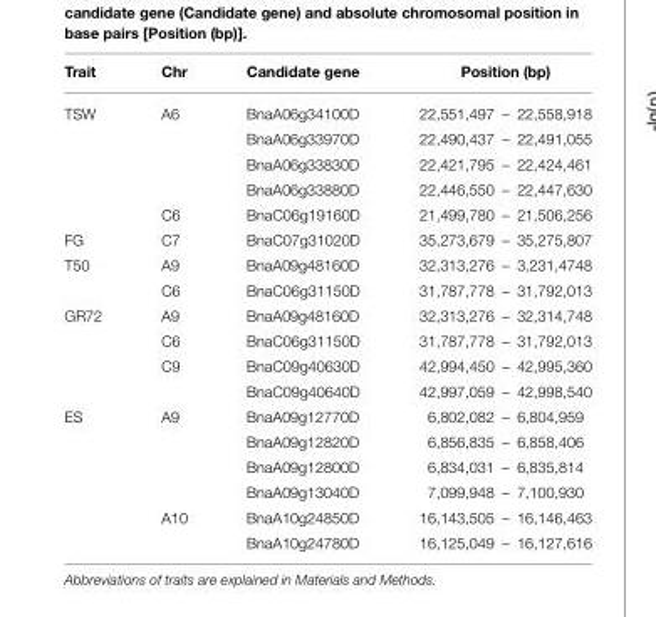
<table><thead><tr><td>Trait</td><td>Chr</td><td>Candidate gene</td><td>Position (bp)</td></tr></thead><tbody><tr><td rowspan="5">TSW</td><td>A6</td><td>BnaA06g34100D</td><td>22,551,497 – 22,558,918</td></tr><tr><td></td><td>BnaA06g33970D</td><td>22,490,437 – 22,491,055</td></tr><tr><td></td><td>BnaA06g33830D</td><td>22,421,795 – 22,424,461</td></tr><tr><td></td><td>BnaA06g33880D</td><td>22,446,550 – 22,447,630</td></tr><tr><td>C6</td><td>BnaC06g19160D</td><td>21,499,780 – 21,506,256</td></tr><tr><td>FG</td><td>C7</td><td>BnaC07g31020D</td><td>35,273,679 – 35,275,807</td></tr><tr><td rowspan="2">T50</td><td>A9</td><td>BnaA09g48160D</td><td>32,313,276 – 3,231,4748</td></tr><tr><td>C6</td><td>BnaC06g31150D</td><td>31,787,778 – 31,792,013</td></tr><tr><td rowspan="4">GR72</td><td>A9</td><td>BnaA09g48160D</td><td>32,313,276 – 32,314,748</td></tr><tr><td>C6</td><td>BnaC06g31150D</td><td>31,787,778 – 31,792,013</td></tr><tr><td>C9</td><td>BnaC09g40630D</td><td>42,994,450 – 42,995,360</td></tr><tr><td></td><td>BnaC09g40640D</td><td>42,997,059 – 42,998,540</td></tr><tr><td rowspan="6">ES</td><td>A9</td><td>BnaA09g12770D</td><td>6,802,082 – 6,804,959</td></tr><tr><td></td><td>BnaA09g12820D</td><td>6,856,835 – 6,858,406</td></tr><tr><td></td><td>BnaA09g12800D</td><td>6,834,031 – 6,835,814</td></tr><tr><td></td><td>BnaA09g13040D</td><td>7,099,948 – 7,100,930</td></tr><tr><td>A10</td><td>BnaA10g24850D</td><td>16,143,505 – 16,146,463</td></tr><tr><td></td><td>BnaA10g24780D</td><td>16,125,049 – 16,127,616</td></tr></tbody></table>